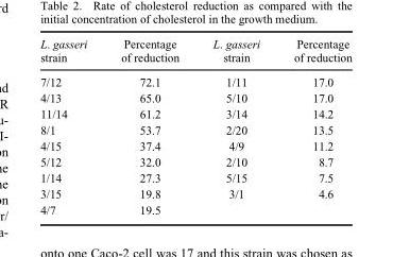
<table><thead><tr><td>L. gasseri strain</td><td>Percentage of reduction</td><td>L. gasseri strain</td><td>Percentage of reduction</td></tr></thead><tbody><tr><td>7/12</td><td>72.1</td><td>1/11</td><td>17.0</td></tr><tr><td>4/13</td><td>65.0</td><td>5/10</td><td>17.0</td></tr><tr><td>11/14</td><td>61.2</td><td>3/14</td><td>14.2</td></tr><tr><td>8/1</td><td>53.7</td><td>2/20</td><td>13.5</td></tr><tr><td>4/15</td><td>37.4</td><td>4/9</td><td>11.2</td></tr><tr><td>5/12</td><td>32.0</td><td>2/10</td><td>8.7</td></tr><tr><td>1/14</td><td>27.3</td><td>5/15</td><td>7.5</td></tr><tr><td>3/15</td><td>19.8</td><td>3/1</td><td>4.6</td></tr><tr><td>4/7</td><td>19.5</td><td></td><td></td></tr></tbody></table>